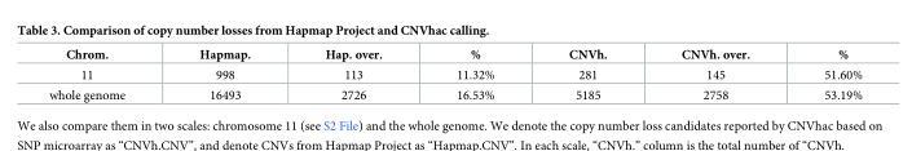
<table><thead><tr><td>Chrom.</td><td>Hapmap.</td><td>Hap. over.</td><td>%</td><td>CNVh.</td><td>CNVh. over.</td><td>%</td></tr></thead><tbody><tr><td>11</td><td>998</td><td>113</td><td>11.32%</td><td>281</td><td>145</td><td>51.60%</td></tr><tr><td>whole genome</td><td>16493</td><td>2726</td><td>16.53%</td><td>5185</td><td>2758</td><td>53.19%</td></tr></tbody></table>